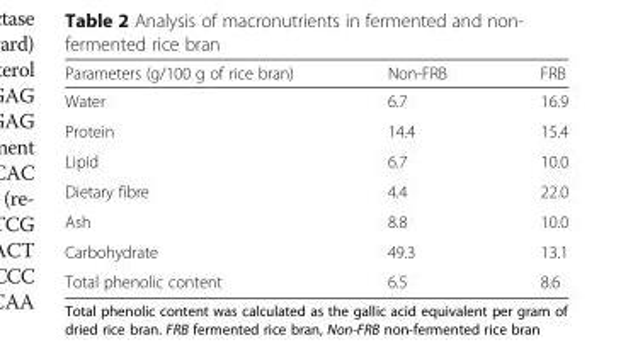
<table><thead><tr><td>Parameters (g/100 g of rice bran)</td><td>Non-FRB</td><td>FRB</td></tr></thead><tbody><tr><td>Water</td><td>6.7</td><td>16.9</td></tr><tr><td>Protein</td><td>14.4</td><td>15.4</td></tr><tr><td>Lipid</td><td>6.7</td><td>10.0</td></tr><tr><td>Dietary fibre</td><td>4.4</td><td>22.0</td></tr><tr><td>Ash</td><td>8.8</td><td>10.0</td></tr><tr><td>Carbohydrate</td><td>49.3</td><td>13.1</td></tr><tr><td>Total phenolic content</td><td>6.5</td><td>8.6</td></tr></tbody></table>